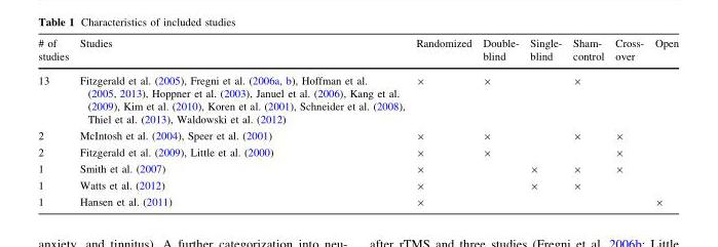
<table><thead><tr><td># of studies</td><td>Studies</td><td>Randomized</td><td>Double- blind</td><td>Single- blind</td><td>Sham- control</td><td>Cross- over</td><td>Open</td></tr></thead><tbody><tr><td>13</td><td>Fitzgerald et al. (2005), Fregni et al. (2006a, b), Hoffman et al. (2005, 2013), Hoppner et al. (2003), Januel et al. (2006), Kang et al. (2009), Kim et al. (2010), Koren et al. (2001), Schneider et al. (2008), Thiel et al. (2013), Waldowski et al. (2012)</td><td>×</td><td>×</td><td></td><td>×</td><td></td><td></td></tr><tr><td>2</td><td>McIntosh et al. (2004), Speer et al. (2001)</td><td>×</td><td>×</td><td></td><td>×</td><td>×</td><td></td></tr><tr><td>2</td><td>Fitzgerald et al. (2009), Little et al. (2000)</td><td>×</td><td>×</td><td></td><td></td><td>×</td><td></td></tr><tr><td>1</td><td>Smith et al. (2007)</td><td>×</td><td></td><td>×</td><td>×</td><td>×</td><td></td></tr><tr><td>1</td><td>Watts et al. (2012)</td><td>×</td><td></td><td>×</td><td>×</td><td></td><td></td></tr><tr><td>1</td><td>Hansen et al. (2011)</td><td>×</td><td></td><td></td><td></td><td></td><td>×</td></tr></tbody></table>